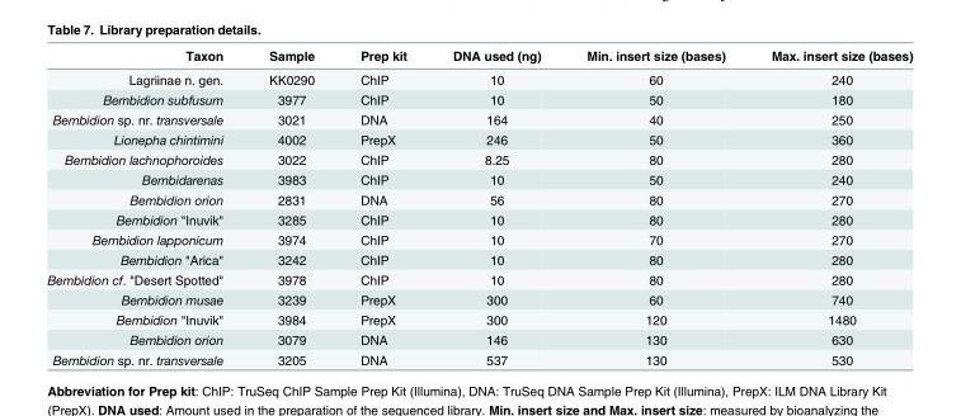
<table><thead><tr><td>Taxon</td><td>Sample</td><td>Prep kit</td><td>DNA used (ng)</td><td>Min. insert size (bases)</td><td>Max. insert size (bases)</td></tr></thead><tbody><tr><td>Lagriinae n. gen.</td><td>KK0290</td><td>ChIP</td><td>10</td><td>60</td><td>240</td></tr><tr><td>Bembidion subfusum</td><td>3977</td><td>ChIP</td><td>10</td><td>50</td><td>180</td></tr><tr><td>Bembidion sp. nr. transversale</td><td>3021</td><td>DNA</td><td>164</td><td>40</td><td>250</td></tr><tr><td>Lionepha chintimini</td><td>4002</td><td>PrepX</td><td>246</td><td>50</td><td>360</td></tr><tr><td>Bembidion lachnophoroides</td><td>3022</td><td>ChIP</td><td>8.25</td><td>80</td><td>280</td></tr><tr><td>Bembidarenas</td><td>3983</td><td>ChIP</td><td>10</td><td>50</td><td>240</td></tr><tr><td>Bembidion orion</td><td>2831</td><td>DNA</td><td>56</td><td>80</td><td>270</td></tr><tr><td>Bembidion &quot;Inuvik&quot;</td><td>3285</td><td>ChIP</td><td>10</td><td>80</td><td>280</td></tr><tr><td>Bembidion lapponicum</td><td>3974</td><td>ChIP</td><td>10</td><td>70</td><td>270</td></tr><tr><td>Bembidion &quot;Arica&quot;</td><td>3242</td><td>ChIP</td><td>10</td><td>80</td><td>280</td></tr><tr><td>Bembidion cf. &quot;Desert Spotted&quot;</td><td>3978</td><td>ChIP</td><td>10</td><td>80</td><td>280</td></tr><tr><td>Bembidion musae</td><td>3239</td><td>PrepX</td><td>300</td><td>60</td><td>740</td></tr><tr><td>Bembidion &quot;Inuvik&quot;</td><td>3984</td><td>PrepX</td><td>300</td><td>120</td><td>1480</td></tr><tr><td>Bembidion orion</td><td>3079</td><td>DNA</td><td>146</td><td>130</td><td>630</td></tr><tr><td>Bembidion sp. nr. transversale</td><td>3205</td><td>DNA</td><td>537</td><td>130</td><td>530</td></tr></tbody></table>